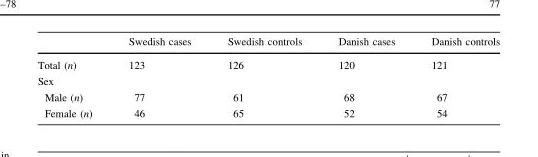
<table><thead><tr><td></td><td>Swedish cases</td><td>Swedish controls</td><td>Danish cases</td><td>Danish controls</td></tr></thead><tbody><tr><td>Total (n)</td><td>123</td><td>126</td><td>120</td><td>121</td></tr><tr><td colspan="5">Sex</td></tr><tr><td>Male (n)</td><td>77</td><td>61</td><td>68</td><td>67</td></tr><tr><td>Female (n)</td><td>46</td><td>65</td><td>52</td><td>54</td></tr></tbody></table>